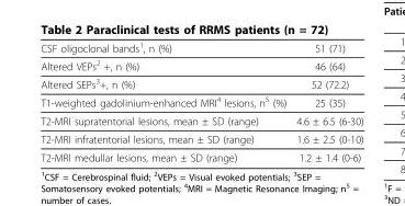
<table><thead><tr><td>CSF oligoclonal bands<sup>1</sup>, n (%)</td><td>51 (71)</td></tr></thead><tbody><tr><td>Altered VEPs<sup>2</sup> +, n (%)</td><td>46 (64)</td></tr><tr><td>Altered SEPs<sup>3</sup>+, n (%)</td><td>52 (72.2)</td></tr><tr><td>T1-weighted gadolinium-enhanced MRI<sup>4</sup> lesions, n<sup>5</sup> (%)</td><td>25 (35)</td></tr><tr><td>T2-MRI supratentorial lesions, mean ± SD (range)</td><td>4.6 ± 6.5 (6-30)</td></tr><tr><td>T2-MRI infratentorial lesions, mean ± SD (range)</td><td>1.6 ± 2.5 (0-10)</td></tr><tr><td>T2-MRI medullar lesions, mean ± SD (range)</td><td>1.2 ± 1.4 (0-6)</td></tr></tbody></table>